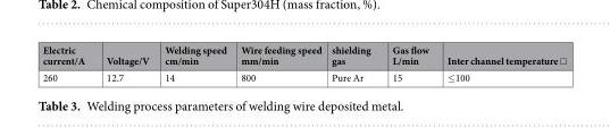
<table><thead><tr><td>Electric current/A</td><td>Voltage/V</td><td>Welding speed cm/min</td><td>Wire feeding speed mm/min</td><td>shielding gas</td><td>Gas flow L/min</td><td>Inter channel temperature □</td></tr></thead><tbody><tr><td>260</td><td>12.7</td><td>14</td><td>800</td><td>Pure Ar</td><td>15</td><td>≤100</td></tr></tbody></table>